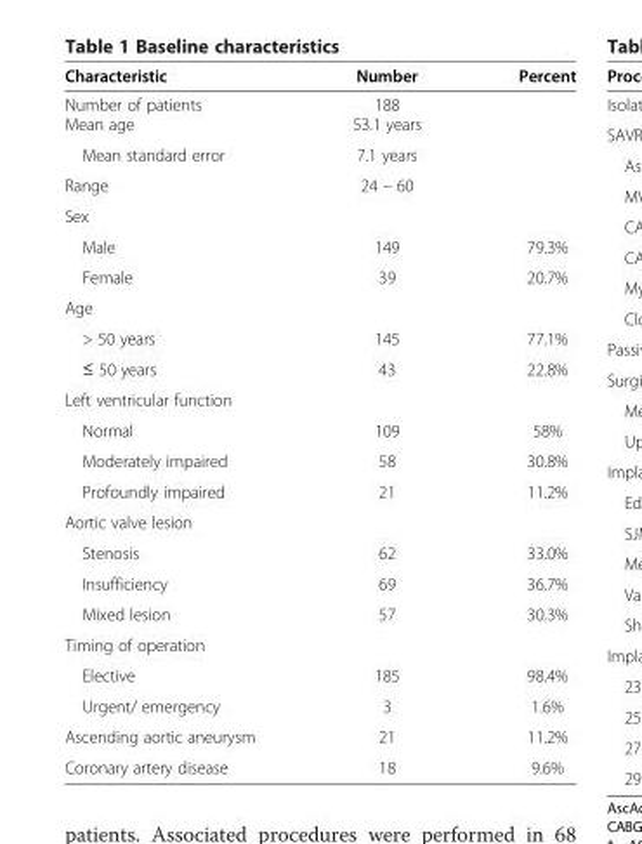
<table><thead><tr><td rowspan="2">Characteristic Number of patients</td><td rowspan="2">Number 188</td><td rowspan="2">Percent</td></tr><tr></tr></thead><tbody><tr><td>Mean age</td><td>53.1 years</td><td></td></tr><tr><td>Mean standard error</td><td>7.1 years</td><td></td></tr><tr><td>Range</td><td>24 – 60</td><td></td></tr><tr><td colspan="3">Sex</td></tr><tr><td>Male</td><td>149</td><td>79.3%</td></tr><tr><td>Female</td><td>39</td><td>20.7%</td></tr><tr><td colspan="3">Age</td></tr><tr><td>&gt; 50 years</td><td>145</td><td>77.1%</td></tr><tr><td>≤ 50 years</td><td>43</td><td>22.8%</td></tr><tr><td colspan="3">Left ventricular function</td></tr><tr><td>Normal</td><td>109</td><td>58%</td></tr><tr><td>Moderately impaired</td><td>58</td><td>30.8%</td></tr><tr><td>Profoundly impaired</td><td>21</td><td>11.2%</td></tr><tr><td colspan="3">Aortic valve lesion</td></tr><tr><td>Stenosis</td><td>62</td><td>33.0%</td></tr><tr><td>Insufficiency</td><td>69</td><td>36.7%</td></tr><tr><td>Mixed lesion</td><td>57</td><td>30.3%</td></tr><tr><td colspan="3">Timing of operation</td></tr><tr><td>Elective</td><td>185</td><td>98.4%</td></tr><tr><td>Urgent/ emergency</td><td>3</td><td>1.6%</td></tr><tr><td>Ascending aortic aneurysm</td><td>21</td><td>11.2%</td></tr><tr><td>Coronary artery disease</td><td>18</td><td>9.6%</td></tr></tbody></table>